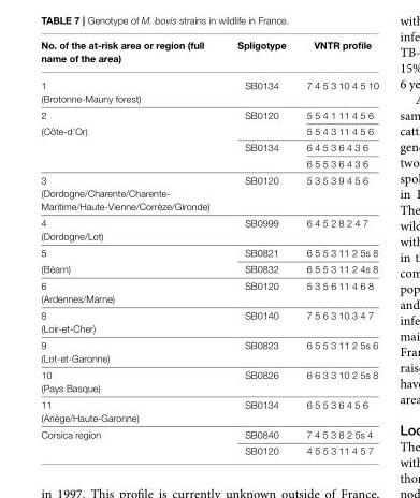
<table><thead><tr><td>No. of the at-risk area or region (full name of the area)</td><td>Spligotype</td><td>VNTR profile</td></tr></thead><tbody><tr><td>1 (Brotonne-Mauny forest)</td><td>SB0134</td><td>7 4 5 3 10 4 5 10</td></tr><tr><td>2</td><td>SB0120</td><td>5 5 4 1 11 4 5 6</td></tr><tr><td rowspan="3">(Côte-d’Or)</td><td></td><td>5 5 4 3 11 4 5 6</td></tr><tr><td>SB0134</td><td>6 4 5 3 6 4 3 6</td></tr><tr><td></td><td>6 5 5 3 6 4 3 6</td></tr><tr><td>3 (Dordogne/Charente/Charente- Maritime/Haute-Vienne/Corrèze/Gironde)</td><td>SB0120</td><td>5 3 5 3 9 4 5 6</td></tr><tr><td>4 (Dordogne/Lot)</td><td>SB0999</td><td>6 4 5 2 8 2 4 7</td></tr><tr><td>5</td><td>SB0821</td><td>6 5 5 3 11 2 5s 8</td></tr><tr><td>(Béarn)</td><td>SB0832</td><td>6 5 5 3 11 2 4s 8</td></tr><tr><td>6 (Ardennes/Marne)</td><td>SB0120</td><td>5 3 5 6 11 4 6 8</td></tr><tr><td>8 (Loir-et-Cher)</td><td>SB0140</td><td>7 5 6 3 10 3 4 7</td></tr><tr><td>9 (Lot-et-Garonne)</td><td>SB0823</td><td>6 5 5 3 11 2 5s 6</td></tr><tr><td>10 (Pays Basque)</td><td>SB0826</td><td>6 6 3 3 10 2 5s 8</td></tr><tr><td>11 (Ariège/Haute-Garonne)</td><td>SB0134</td><td>6 5 5 3 6 4 5 6</td></tr><tr><td rowspan="2">Corsica region</td><td>SB0840</td><td>7 4 5 3 8 2 5s 4</td></tr><tr><td>SB0120</td><td>4 5 5 3 11 4 5 7</td></tr></tbody></table>